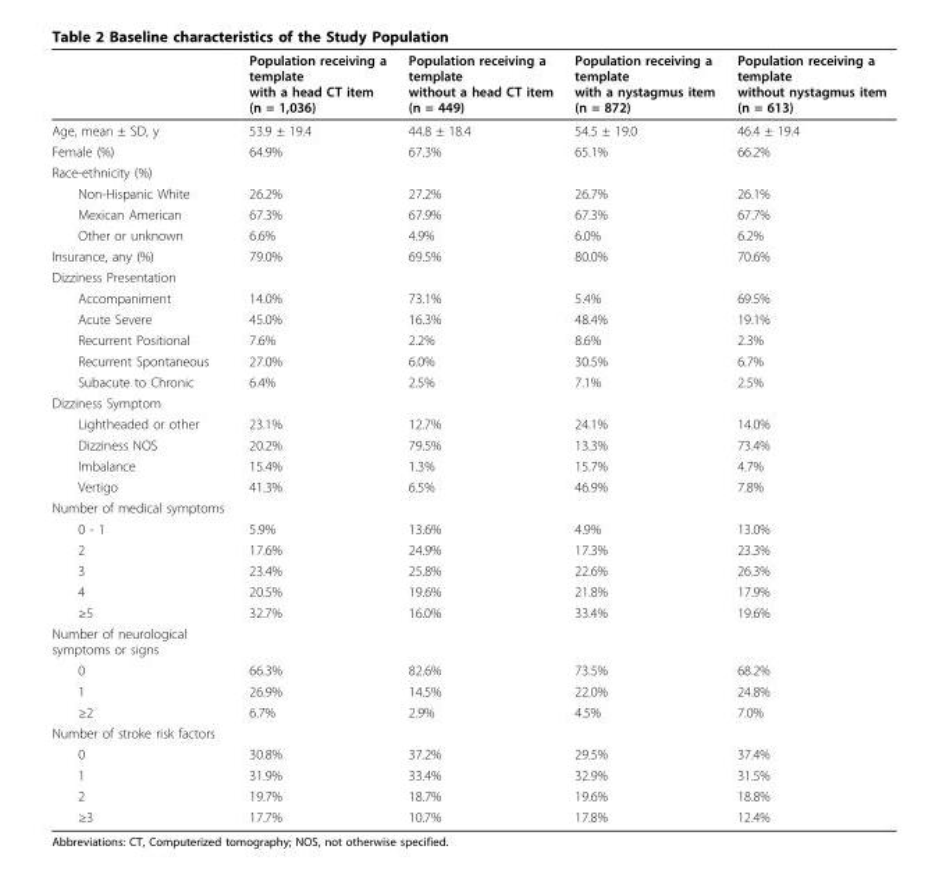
<table><thead><tr><td></td><td>Population receiving a template with a head CT item (n = 1,036)</td><td>Population receiving a template without a head CT item (n = 449)</td><td>Population receiving a template with a nystagmus item (n = 872)</td><td>Population receiving a template without nystagmus item (n = 613)</td></tr></thead><tbody><tr><td>Age, mean ± SD, y</td><td>53.9 ± 19.4</td><td>44.8 ± 18.4</td><td>54.5 ± 19.0</td><td>46.4 ± 19.4</td></tr><tr><td>Female (%)</td><td>64.9%</td><td>67.3%</td><td>65.1%</td><td>66.2%</td></tr><tr><td colspan="5">Race-ethnicity (%)</td></tr><tr><td>Non-Hispanic White</td><td>26.2%</td><td>27.2%</td><td>26.7%</td><td>26.1%</td></tr><tr><td>Mexican American</td><td>67.3%</td><td>67.9%</td><td>67.3%</td><td>67.7%</td></tr><tr><td>Other or unknown</td><td>6.6%</td><td>4.9%</td><td>6.0%</td><td>6.2%</td></tr><tr><td>Insurance, any (%)</td><td>79.0%</td><td>69.5%</td><td>80.0%</td><td>70.6%</td></tr><tr><td colspan="5">Dizziness Presentation</td></tr><tr><td>Accompaniment</td><td>14.0%</td><td>73.1%</td><td>5.4%</td><td>69.5%</td></tr><tr><td>Acute Severe</td><td>45.0%</td><td>16.3%</td><td>48.4%</td><td>19.1%</td></tr><tr><td>Recurrent Positional</td><td>7.6%</td><td>2.2%</td><td>8.6%</td><td>2.3%</td></tr><tr><td>Recurrent Spontaneous</td><td>27.0%</td><td>6.0%</td><td>30.5%</td><td>6.7%</td></tr><tr><td>Subacute to Chronic</td><td>6.4%</td><td>2.5%</td><td>7.1%</td><td>2.5%</td></tr><tr><td colspan="5">Dizziness Symptom</td></tr><tr><td>Lightheaded or other</td><td>23.1%</td><td>12.7%</td><td>24.1%</td><td>14.0%</td></tr><tr><td>Dizziness NOS</td><td>20.2%</td><td>79.5%</td><td>13.3%</td><td>73.4%</td></tr><tr><td>Imbalance</td><td>15.4%</td><td>1.3%</td><td>15.7%</td><td>4.7%</td></tr><tr><td>Vertigo</td><td>41.3%</td><td>6.5%</td><td>46.9%</td><td>7.8%</td></tr><tr><td colspan="5">Number of medical symptoms</td></tr><tr><td>0 - 1</td><td>5.9%</td><td>13.6%</td><td>4.9%</td><td>13.0%</td></tr><tr><td>2</td><td>17.6%</td><td>24.9%</td><td>17.3%</td><td>23.3%</td></tr><tr><td>3</td><td>23.4%</td><td>25.8%</td><td>22.6%</td><td>26.3%</td></tr><tr><td>4</td><td>20.5%</td><td>19.6%</td><td>21.8%</td><td>17.9%</td></tr><tr><td>≥5</td><td>32.7%</td><td>16.0%</td><td>33.4%</td><td>19.6%</td></tr><tr><td colspan="5">Number of neurological symptoms or signs</td></tr><tr><td>0</td><td>66.3%</td><td>82.6%</td><td>73.5%</td><td>68.2%</td></tr><tr><td>1</td><td>26.9%</td><td>14.5%</td><td>22.0%</td><td>24.8%</td></tr><tr><td>≥2</td><td>6.7%</td><td>2.9%</td><td>4.5%</td><td>7.0%</td></tr><tr><td colspan="5">Number of stroke risk factors</td></tr><tr><td>0</td><td>30.8%</td><td>37.2%</td><td>29.5%</td><td>37.4%</td></tr><tr><td>1</td><td>31.9%</td><td>33.4%</td><td>32.9%</td><td>31.5%</td></tr><tr><td>2</td><td>19.7%</td><td>18.7%</td><td>19.6%</td><td>18.8%</td></tr><tr><td>≥3</td><td>17.7%</td><td>10.7%</td><td>17.8%</td><td>12.4%</td></tr></tbody></table>